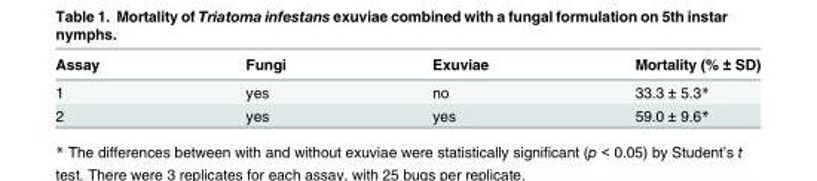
<table><thead><tr><td>Assay</td><td>Fungi</td><td>Exuviae</td><td>Mortality (% ± SD)</td></tr></thead><tbody><tr><td>1</td><td>yes</td><td>no</td><td>33.3 ± 5.3*</td></tr><tr><td>2</td><td>yes</td><td>yes</td><td>59.0 ± 9.6*</td></tr></tbody></table>